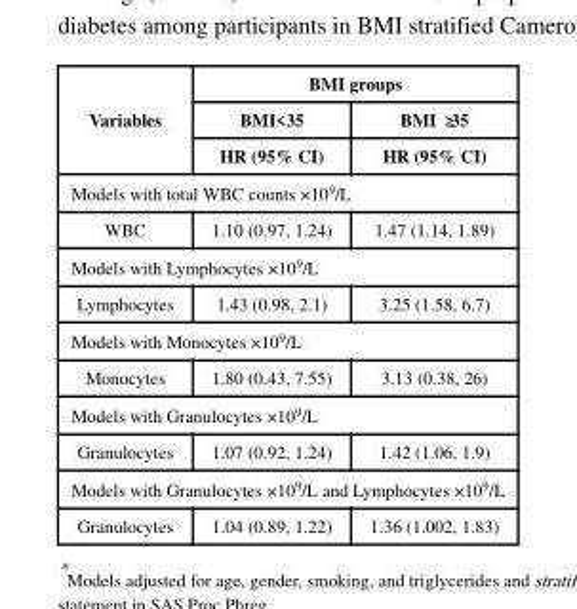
<table><thead><tr><td rowspan="3">Variables</td><td colspan="2">BMI groups</td></tr><tr><td rowspan="2">BMI&lt;35 HR (95% CI)</td><td rowspan="2">BMI ≥35 HR (95% CI)</td></tr><tr></tr></thead><tbody><tr><td colspan="3">Models with total WBC counts ×10<sup>9</sup>/L</td></tr><tr><td>WBC</td><td>1.10 (0.97, 1.24)</td><td>1.47 (1.14, 1.89)</td></tr><tr><td colspan="3">Models with Lymphocytes ×10<sup>9</sup>/L</td></tr><tr><td>Lymphocytes</td><td>1.43 (0.98, 2.1)</td><td>3.25 (1.58, 6.7)</td></tr><tr><td colspan="3">Models with Monocytes ×10<sup>9</sup>/L</td></tr><tr><td>Monocytes</td><td>1.80 (0.43, 7.55)</td><td>3.13 (0.38, 26)</td></tr><tr><td colspan="3">Models with Granulocytes ×10<sup>9</sup>/L</td></tr><tr><td>Granulocytes</td><td>1.07 (0.92, 1.24)</td><td>1.42 (1.06, 1.9)</td></tr><tr><td colspan="3">Models with Granulocytes ×10<sup>9</sup>/L and Lymphocytes ×10<sup>9</sup>/L</td></tr><tr><td>Granulocytes</td><td>1.04 (0.89, 1.22)</td><td>1.36 (1.002, 1.83)</td></tr></tbody></table>